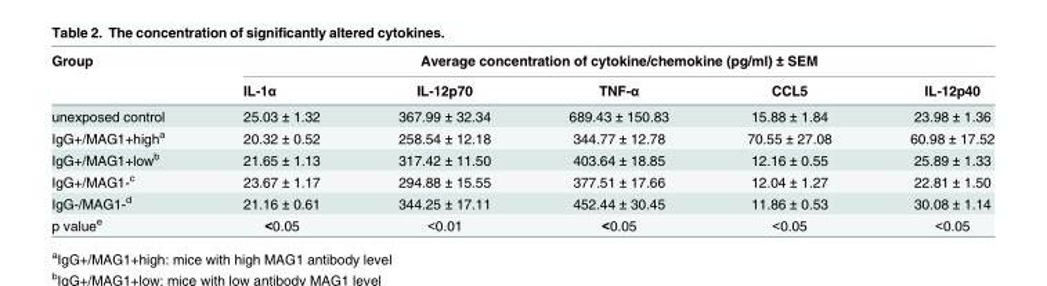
<table><thead><tr><td rowspan="2">Group</td><td colspan="5">Average concentration of cytokine/chemokine (pg/ml) ± SEM</td></tr><tr><td>IL-1α</td><td>IL-12p70</td><td>TNF-α</td><td>CCL5</td><td>IL-12p40</td></tr></thead><tbody><tr><td>unexposed control</td><td>25.03 ± 1.32</td><td>367.99 ± 32.34</td><td>689.43 ± 150.83</td><td>15.88 ± 1.84</td><td>23.98 ± 1.36</td></tr><tr><td>IgG+/MAG1+high<sup>a</sup></td><td>20.32 ± 0.52</td><td>258.54 ± 12.18</td><td>344.77 ± 12.78</td><td>70.55 ± 27.08</td><td>60.98 ± 17.52</td></tr><tr><td>IgG+/MAG1+low<sup>b</sup></td><td>21.65 ± 1.13</td><td>317.42 ± 11.50</td><td>403.64 ± 18.85</td><td>12.16 ± 0.55</td><td>25.89 ± 1.33</td></tr><tr><td>IgG+/MAG1-<sup>c</sup></td><td>23.67 ± 1.17</td><td>294.88 ± 15.55</td><td>377.51 ± 17.66</td><td>12.04 ± 1.27</td><td>22.81 ± 1.50</td></tr><tr><td>IgG-/MAG1-<sup>d</sup></td><td>21.16 ± 0.61</td><td>344.25 ± 17.11</td><td>452.44 ± 30.45</td><td>11.86 ± 0.53</td><td>30.08 ± 1.14</td></tr><tr><td>p value<sup>e</sup></td><td>&lt;0.05</td><td>&lt;0.01</td><td>&lt;0.05</td><td>&lt;0.05</td><td>&lt;0.05</td></tr></tbody></table>